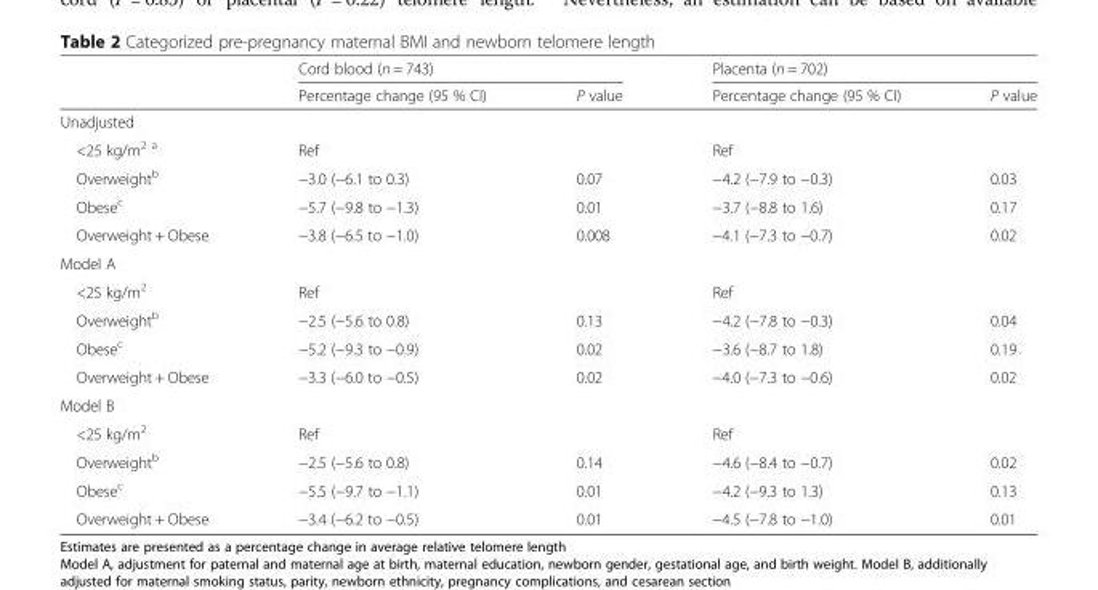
<table><thead><tr><td rowspan="2"></td><td colspan="2">Cord blood (n = 743)</td><td colspan="2">Placenta (n = 702)</td></tr><tr><td>Percentage change (95 % CI)</td><td>P value</td><td>Percentage change (95 % CI)</td><td>P value</td></tr></thead><tbody><tr><td colspan="5">Unadjusted</td></tr><tr><td>&lt;25 kg/m<sup>2 a</sup></td><td>Ref</td><td></td><td>Ref</td><td></td></tr><tr><td>Overweight<sup>b</sup></td><td>−3.0 (−6.1 to 0.3)</td><td>0.07</td><td>−4.2 (−7.9 to −0.3)</td><td>0.03</td></tr><tr><td>Obese<sup>c</sup></td><td>−5.7 (−9.8 to −1.3)</td><td>0.01</td><td>−3.7 (−8.8 to 1.6)</td><td>0.17</td></tr><tr><td>Overweight + Obese</td><td>−3.8 (−6.5 to −1.0)</td><td>0.008</td><td>−4.1 (−7.3 to −0.7)</td><td>0.02</td></tr><tr><td colspan="5">Model A</td></tr><tr><td>&lt;25 kg/m<sup>2</sup></td><td>Ref</td><td></td><td>Ref</td><td></td></tr><tr><td>Overweight<sup>b</sup></td><td>−2.5 (−5.6 to 0.8)</td><td>0.13</td><td>−4.2 (−7.8 to −0.3)</td><td>0.04</td></tr><tr><td>Obese<sup>c</sup></td><td>−5.2 (−9.3 to −0.9)</td><td>0.02</td><td>−3.6 (−8.7 to 1.8)</td><td>0.19</td></tr><tr><td>Overweight + Obese</td><td>−3.3 (−6.0 to −0.5)</td><td>0.02</td><td>−4.0 (−7.3 to −0.6)</td><td>0.02</td></tr><tr><td colspan="5">Model B</td></tr><tr><td>&lt;25 kg/m<sup>2</sup></td><td>Ref</td><td></td><td>Ref</td><td></td></tr><tr><td>Overweight<sup>b</sup></td><td>−2.5 (−5.6 to 0.8)</td><td>0.14</td><td>−4.6 (−8.4 to −0.7)</td><td>0.02</td></tr><tr><td>Obese<sup>c</sup></td><td>−5.5 (−9.7 to −1.1)</td><td>0.01</td><td>−4.2 (−9.3 to 1.3)</td><td>0.13</td></tr><tr><td>Overweight + Obese</td><td>−3.4 (−6.2 to −0.5)</td><td>0.01</td><td>−4.5 (−7.8 to −1.0)</td><td>0.01</td></tr></tbody></table>